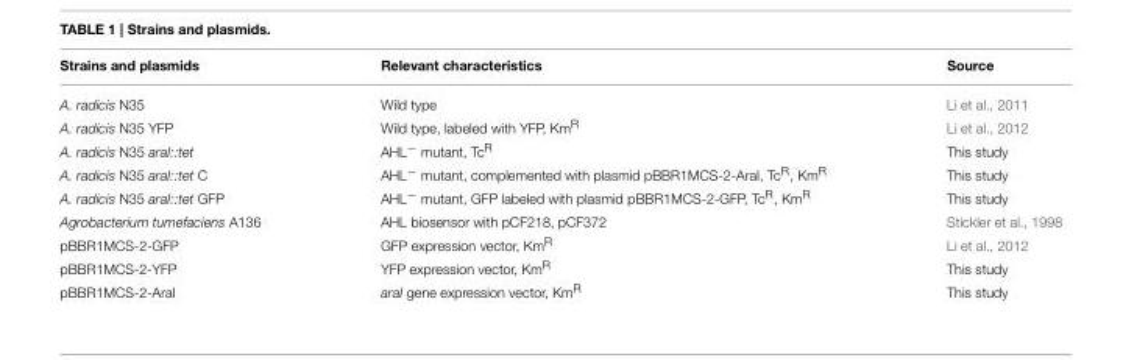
<table><thead><tr><td>Strains and plasmids</td><td>Relevant characteristics</td><td>Source</td></tr></thead><tbody><tr><td>A. radicis N35</td><td>Wild type</td><td>Li et al., 2011</td></tr><tr><td>A. radicis N35 YFP</td><td>Wild type, labeled with YFP, Km<sup>R</sup></td><td>Li et al., 2012</td></tr><tr><td>A. radicis N35 araI::tet</td><td>AHL<sup>−</sup> mutant, Tc<sup>R</sup></td><td>This study</td></tr><tr><td>A. radicis N35 araI::tet C</td><td>AHL<sup>−</sup> mutant, complemented with plasmid pBBR1MCS-2-AraI, Tc<sup>R</sup>, Km<sup>R</sup></td><td>This study</td></tr><tr><td>A. radicis N35 araI::tet GFP</td><td>AHL<sup>−</sup> mutant, GFP labeled with plasmid pBBR1MCS-2-GFP, Tc<sup>R</sup>, Km<sup>R</sup></td><td>This study</td></tr><tr><td>Agrobacterium tumefaciens A136</td><td>AHL biosensor with pCF218, pCF372</td><td>Stickler et al., 1998</td></tr><tr><td>pBBR1MCS-2-GFP</td><td>GFP expression vector, Km<sup>R</sup></td><td>Li et al., 2012</td></tr><tr><td>pBBR1MCS-2-YFP</td><td>YFP expression vector, Km<sup>R</sup></td><td>This study</td></tr><tr><td>pBBR1MCS-2-AraI</td><td>araI gene expression vector, Km<sup>R</sup></td><td>This study</td></tr></tbody></table>